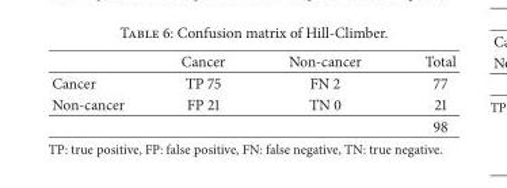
<table><thead><tr><td></td><td>Cancer</td><td>Non-cancer</td><td>Total</td></tr></thead><tbody><tr><td>Cancer</td><td>TP 75</td><td>FN 2</td><td>77</td></tr><tr><td rowspan="2">Non-cancer</td><td>FP 21</td><td>TN 0</td><td>21</td></tr><tr><td></td><td></td><td>98</td></tr></tbody></table>